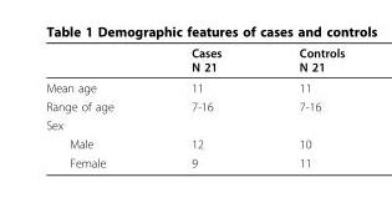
<table><thead><tr><td></td><td>Cases N 21</td><td>Controls N 21</td></tr></thead><tbody><tr><td>Mean age</td><td>11</td><td>11</td></tr><tr><td>Range of age</td><td>7-16</td><td>7-16</td></tr><tr><td colspan="3">Sex</td></tr><tr><td>Male</td><td>12</td><td>10</td></tr><tr><td>Female</td><td>9</td><td>11</td></tr></tbody></table>